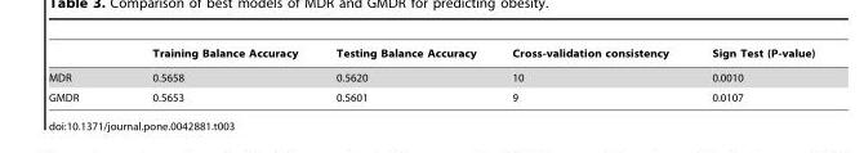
<table><thead><tr><td></td><td>Training Balance Accuracy</td><td>Testing Balance Accuracy</td><td>Cross-validation consistency</td><td>Sign Test (P-value)</td></tr></thead><tbody><tr><td>MDR</td><td>0.5658</td><td>0.5620</td><td>10</td><td>0.0010</td></tr><tr><td>GMDR</td><td>0.5653</td><td>0.5601</td><td>9</td><td>0.0107</td></tr></tbody></table>